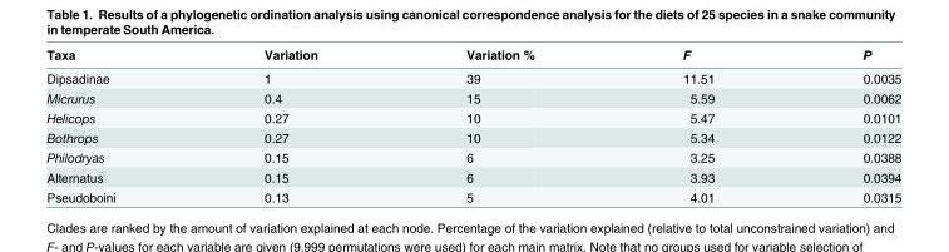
<table><thead><tr><td>Taxa</td><td>Variation</td><td>Variation %</td><td>F</td><td>P</td></tr></thead><tbody><tr><td>Dipsadinae</td><td>1</td><td>39</td><td>11.51</td><td>0.0035</td></tr><tr><td>Micrurus</td><td>0.4</td><td>15</td><td>5.59</td><td>0.0062</td></tr><tr><td>Helicops</td><td>0.27</td><td>10</td><td>5.47</td><td>0.0101</td></tr><tr><td>Bothrops</td><td>0.27</td><td>10</td><td>5.34</td><td>0.0122</td></tr><tr><td>Philodryas</td><td>0.15</td><td>6</td><td>3.25</td><td>0.0388</td></tr><tr><td>Alternatus</td><td>0.15</td><td>6</td><td>3.93</td><td>0.0394</td></tr><tr><td>Pseudoboini</td><td>0.13</td><td>5</td><td>4.01</td><td>0.0315</td></tr></tbody></table>